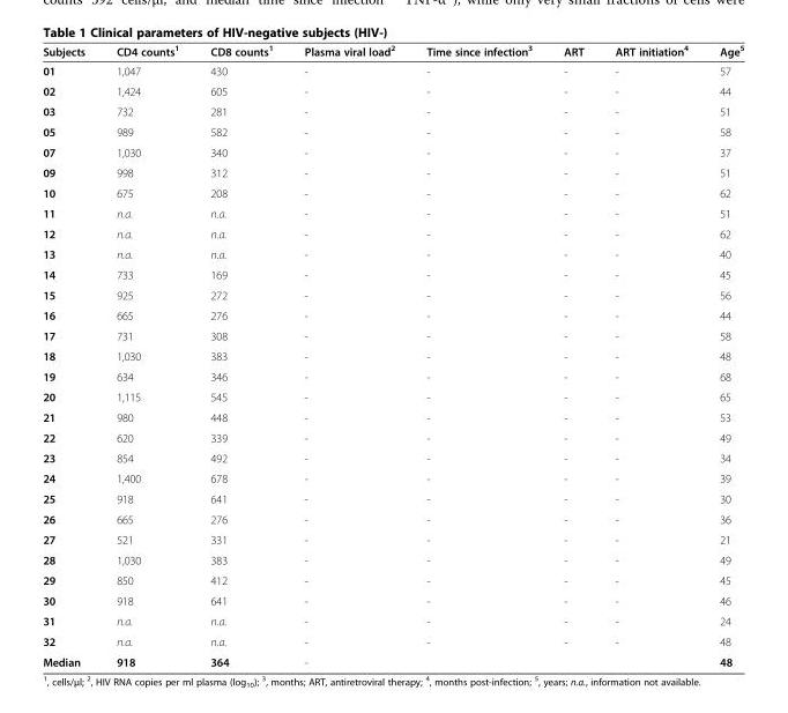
<table><thead><tr><td>Subjects</td><td>CD4 counts<sup>1</sup></td><td>CD8 counts<sup>1</sup></td><td>Plasma viral load<sup>2</sup></td><td>Time since infection<sup>3</sup></td><td>ART</td><td>ART initiation<sup>4</sup></td><td>Age<sup>5</sup></td></tr></thead><tbody><tr><td>01</td><td>1,047</td><td>430</td><td>-</td><td>-</td><td>-</td><td>-</td><td>57</td></tr><tr><td>02</td><td>1,424</td><td>605</td><td>-</td><td>-</td><td>-</td><td>-</td><td>44</td></tr><tr><td>03</td><td>732</td><td>281</td><td>-</td><td>-</td><td>-</td><td>-</td><td>51</td></tr><tr><td>05</td><td>989</td><td>582</td><td>-</td><td>-</td><td>-</td><td>-</td><td>58</td></tr><tr><td>07</td><td>1,030</td><td>340</td><td>-</td><td>-</td><td>-</td><td>-</td><td>37</td></tr><tr><td>09</td><td>998</td><td>312</td><td>-</td><td>-</td><td>-</td><td>-</td><td>51</td></tr><tr><td>10</td><td>675</td><td>208</td><td>-</td><td>-</td><td>-</td><td>-</td><td>62</td></tr><tr><td>11</td><td>n.a.</td><td>n.a.</td><td>-</td><td>-</td><td>-</td><td>-</td><td>51</td></tr><tr><td>12</td><td>n.a.</td><td>n.a.</td><td>-</td><td>-</td><td>-</td><td>-</td><td>62</td></tr><tr><td>13</td><td>n.a.</td><td>n.a.</td><td>-</td><td>-</td><td>-</td><td>-</td><td>40</td></tr><tr><td>14</td><td>733</td><td>169</td><td>-</td><td>-</td><td>-</td><td>-</td><td>45</td></tr><tr><td>15</td><td>925</td><td>272</td><td>-</td><td>-</td><td>-</td><td>-</td><td>56</td></tr><tr><td>16</td><td>665</td><td>276</td><td>-</td><td>-</td><td>-</td><td>-</td><td>44</td></tr><tr><td>17</td><td>731</td><td>308</td><td>-</td><td>-</td><td>-</td><td>-</td><td>58</td></tr><tr><td>18</td><td>1,030</td><td>383</td><td>-</td><td>-</td><td>-</td><td>-</td><td>48</td></tr><tr><td>19</td><td>634</td><td>346</td><td>-</td><td>-</td><td>-</td><td>-</td><td>68</td></tr><tr><td>20</td><td>1,115</td><td>545</td><td>-</td><td>-</td><td>-</td><td>-</td><td>65</td></tr><tr><td>21</td><td>980</td><td>448</td><td>-</td><td>-</td><td>-</td><td>-</td><td>53</td></tr><tr><td>22</td><td>620</td><td>339</td><td>-</td><td>-</td><td>-</td><td>-</td><td>49</td></tr><tr><td>23</td><td>854</td><td>492</td><td>-</td><td>-</td><td>-</td><td>-</td><td>34</td></tr><tr><td>24</td><td>1,400</td><td>678</td><td>-</td><td>-</td><td>-</td><td>-</td><td>39</td></tr><tr><td>25</td><td>918</td><td>641</td><td>-</td><td>-</td><td>-</td><td>-</td><td>30</td></tr><tr><td>26</td><td>665</td><td>276</td><td>-</td><td>-</td><td>-</td><td>-</td><td>36</td></tr><tr><td>27</td><td>521</td><td>331</td><td>-</td><td>-</td><td>-</td><td>-</td><td>21</td></tr><tr><td>28</td><td>1,030</td><td>383</td><td>-</td><td>-</td><td>-</td><td>-</td><td>49</td></tr><tr><td>29</td><td>850</td><td>412</td><td>-</td><td>-</td><td>-</td><td>-</td><td>45</td></tr><tr><td>30</td><td>918</td><td>641</td><td>-</td><td>-</td><td>-</td><td>-</td><td>46</td></tr><tr><td>31</td><td>n.a.</td><td>n.a.</td><td>-</td><td>-</td><td>-</td><td>-</td><td>24</td></tr><tr><td>32</td><td>n.a.</td><td>n.a.</td><td>-</td><td>-</td><td>-</td><td>-</td><td>48</td></tr><tr><td>Median</td><td>918</td><td>364</td><td>-</td><td></td><td></td><td></td><td>48</td></tr></tbody></table>